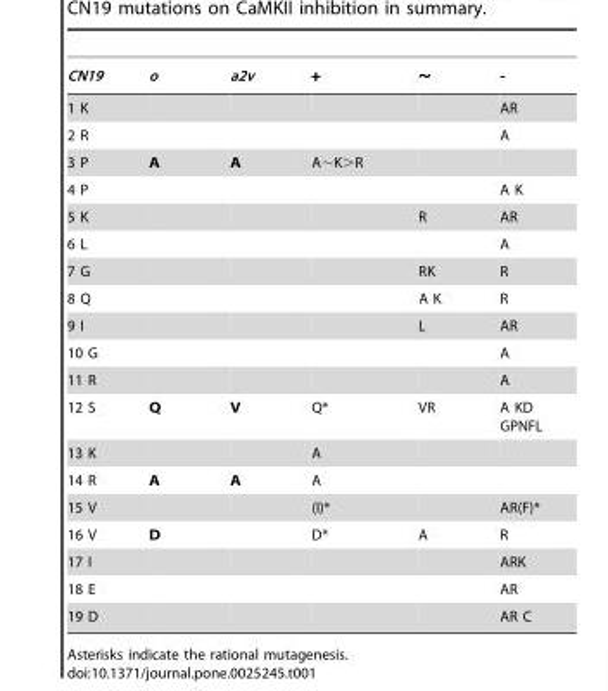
<table><thead><tr><td>CN19</td><td>o</td><td>a2v</td><td>+</td><td>∼</td><td>-</td></tr></thead><tbody><tr><td>1 K</td><td></td><td></td><td></td><td></td><td>AR</td></tr><tr><td>2 R</td><td></td><td></td><td></td><td></td><td>A</td></tr><tr><td>3 P</td><td>A</td><td>A</td><td>A∼K&gt;R</td><td></td><td></td></tr><tr><td>4 P</td><td></td><td></td><td></td><td></td><td>A K</td></tr><tr><td>5 K</td><td></td><td></td><td></td><td>R</td><td>AR</td></tr><tr><td>6 L</td><td></td><td></td><td></td><td></td><td>A</td></tr><tr><td>7 G</td><td></td><td></td><td></td><td>RK</td><td>R</td></tr><tr><td>8 Q</td><td></td><td></td><td></td><td>A K</td><td>R</td></tr><tr><td>9 I</td><td></td><td></td><td></td><td>L</td><td>AR</td></tr><tr><td>10 G</td><td></td><td></td><td></td><td></td><td>A</td></tr><tr><td>11 R</td><td></td><td></td><td></td><td></td><td>A</td></tr><tr><td>12 S</td><td>Q</td><td>V</td><td>Q*</td><td>VR</td><td>A KD GPNFL</td></tr><tr><td>13 K</td><td></td><td></td><td>A</td><td></td><td></td></tr><tr><td>14 R</td><td>A</td><td>A</td><td>A</td><td></td><td></td></tr><tr><td>15 V</td><td></td><td></td><td>(I)*</td><td></td><td>AR(F)*</td></tr><tr><td>16 V</td><td>D</td><td></td><td>D*</td><td>A</td><td>R</td></tr><tr><td>17 I</td><td></td><td></td><td></td><td></td><td>ARK</td></tr><tr><td>18 E</td><td></td><td></td><td></td><td></td><td>AR</td></tr><tr><td>19 D</td><td></td><td></td><td></td><td></td><td>AR C</td></tr></tbody></table>